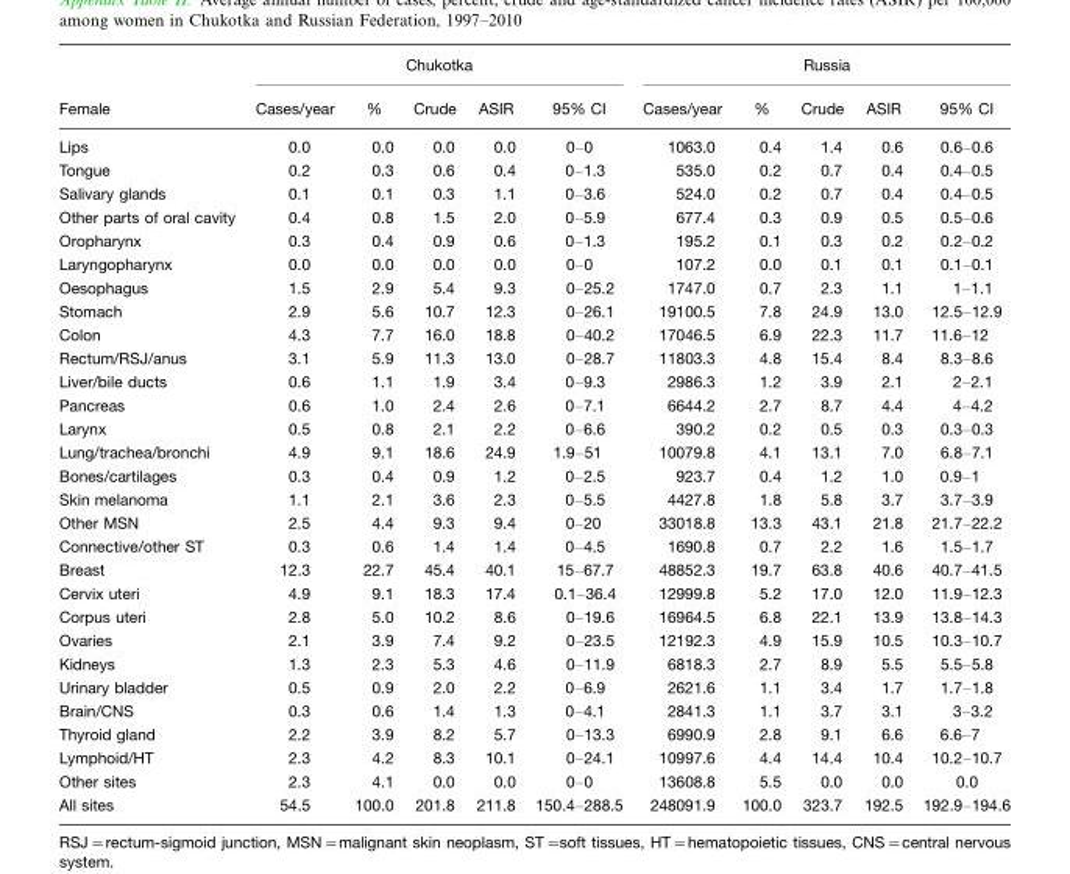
<table><thead><tr><td rowspan="2">Female</td><td colspan="5">Chukotka</td><td colspan="5">Russia</td></tr><tr><td>Cases/year</td><td>%</td><td>Crude</td><td>ASIR</td><td>95% CI</td><td>Cases/year</td><td>%</td><td>Crude</td><td>ASIR</td><td>95% CI</td></tr></thead><tbody><tr><td>Lips</td><td>0.0</td><td>0.0</td><td>0.0</td><td>0.0</td><td>0–0</td><td>1063.0</td><td>0.4</td><td>1.4</td><td>0.6</td><td>0.6–0.6</td></tr><tr><td>Tongue</td><td>0.2</td><td>0.3</td><td>0.6</td><td>0.4</td><td>0–1.3</td><td>535.0</td><td>0.2</td><td>0.7</td><td>0.4</td><td>0.4–0.5</td></tr><tr><td>Salivary glands</td><td>0.1</td><td>0.1</td><td>0.3</td><td>1.1</td><td>0–3.6</td><td>524.0</td><td>0.2</td><td>0.7</td><td>0.4</td><td>0.4–0.5</td></tr><tr><td>Other parts of oral cavity</td><td>0.4</td><td>0.8</td><td>1.5</td><td>2.0</td><td>0–5.9</td><td>677.4</td><td>0.3</td><td>0.9</td><td>0.5</td><td>0.5–0.6</td></tr><tr><td>Oropharynx</td><td>0.3</td><td>0.4</td><td>0.9</td><td>0.6</td><td>0–1.3</td><td>195.2</td><td>0.1</td><td>0.3</td><td>0.2</td><td>0.2–0.2</td></tr><tr><td>Laryngopharynx</td><td>0.0</td><td>0.0</td><td>0.0</td><td>0.0</td><td>0–0</td><td>107.2</td><td>0.0</td><td>0.1</td><td>0.1</td><td>0.1–0.1</td></tr><tr><td>Oesophagus</td><td>1.5</td><td>2.9</td><td>5.4</td><td>9.3</td><td>0–25.2</td><td>1747.0</td><td>0.7</td><td>2.3</td><td>1.1</td><td>1–1.1</td></tr><tr><td>Stomach</td><td>2.9</td><td>5.6</td><td>10.7</td><td>12.3</td><td>0–26.1</td><td>19100.5</td><td>7.8</td><td>24.9</td><td>13.0</td><td>12.5–12.9</td></tr><tr><td>Colon</td><td>4.3</td><td>7.7</td><td>16.0</td><td>18.8</td><td>0–40.2</td><td>17046.5</td><td>6.9</td><td>22.3</td><td>11.7</td><td>11.6–12</td></tr><tr><td>Rectum/RSJ/anus</td><td>3.1</td><td>5.9</td><td>11.3</td><td>13.0</td><td>0–28.7</td><td>11803.3</td><td>4.8</td><td>15.4</td><td>8.4</td><td>8.3–8.6</td></tr><tr><td>Liver/bile ducts</td><td>0.6</td><td>1.1</td><td>1.9</td><td>3.4</td><td>0–9.3</td><td>2986.3</td><td>1.2</td><td>3.9</td><td>2.1</td><td>2–2.1</td></tr><tr><td>Pancreas</td><td>0.6</td><td>1.0</td><td>2.4</td><td>2.6</td><td>0–7.1</td><td>6644.2</td><td>2.7</td><td>8.7</td><td>4.4</td><td>4–4.2</td></tr><tr><td>Larynx</td><td>0.5</td><td>0.8</td><td>2.1</td><td>2.2</td><td>0–6.6</td><td>390.2</td><td>0.2</td><td>0.5</td><td>0.3</td><td>0.3–0.3</td></tr><tr><td>Lung/trachea/bronchi</td><td>4.9</td><td>9.1</td><td>18.6</td><td>24.9</td><td>1.9–51</td><td>10079.8</td><td>4.1</td><td>13.1</td><td>7.0</td><td>6.8–7.1</td></tr><tr><td>Bones/cartilages</td><td>0.3</td><td>0.4</td><td>0.9</td><td>1.2</td><td>0–2.5</td><td>923.7</td><td>0.4</td><td>1.2</td><td>1.0</td><td>0.9–1</td></tr><tr><td>Skin melanoma</td><td>1.1</td><td>2.1</td><td>3.6</td><td>2.3</td><td>0–5.5</td><td>4427.8</td><td>1.8</td><td>5.8</td><td>3.7</td><td>3.7–3.9</td></tr><tr><td>Other MSN</td><td>2.5</td><td>4.4</td><td>9.3</td><td>9.4</td><td>0–20</td><td>33018.8</td><td>13.3</td><td>43.1</td><td>21.8</td><td>21.7–22.2</td></tr><tr><td>Connective/other ST</td><td>0.3</td><td>0.6</td><td>1.4</td><td>1.4</td><td>0–4.5</td><td>1690.8</td><td>0.7</td><td>2.2</td><td>1.6</td><td>1.5–1.7</td></tr><tr><td>Breast</td><td>12.3</td><td>22.7</td><td>45.4</td><td>40.1</td><td>15–67.7</td><td>48852.3</td><td>19.7</td><td>63.8</td><td>40.6</td><td>40.7–41.5</td></tr><tr><td>Cervix uteri</td><td>4.9</td><td>9.1</td><td>18.3</td><td>17.4</td><td>0.1–36.4</td><td>12999.8</td><td>5.2</td><td>17.0</td><td>12.0</td><td>11.9–12.3</td></tr><tr><td>Corpus uteri</td><td>2.8</td><td>5.0</td><td>10.2</td><td>8.6</td><td>0–19.6</td><td>16964.5</td><td>6.8</td><td>22.1</td><td>13.9</td><td>13.8–14.3</td></tr><tr><td>Ovaries</td><td>2.1</td><td>3.9</td><td>7.4</td><td>9.2</td><td>0–23.5</td><td>12192.3</td><td>4.9</td><td>15.9</td><td>10.5</td><td>10.3–10.7</td></tr><tr><td>Kidneys</td><td>1.3</td><td>2.3</td><td>5.3</td><td>4.6</td><td>0–11.9</td><td>6818.3</td><td>2.7</td><td>8.9</td><td>5.5</td><td>5.5–5.8</td></tr><tr><td>Urinary bladder</td><td>0.5</td><td>0.9</td><td>2.0</td><td>2.2</td><td>0–6.9</td><td>2621.6</td><td>1.1</td><td>3.4</td><td>1.7</td><td>1.7–1.8</td></tr><tr><td>Brain/CNS</td><td>0.3</td><td>0.6</td><td>1.4</td><td>1.3</td><td>0–4.1</td><td>2841.3</td><td>1.1</td><td>3.7</td><td>3.1</td><td>3–3.2</td></tr><tr><td>Thyroid gland</td><td>2.2</td><td>3.9</td><td>8.2</td><td>5.7</td><td>0–13.3</td><td>6990.9</td><td>2.8</td><td>9.1</td><td>6.6</td><td>6.6–7</td></tr><tr><td>Lymphoid/HT</td><td>2.3</td><td>4.2</td><td>8.3</td><td>10.1</td><td>0–24.1</td><td>10997.6</td><td>4.4</td><td>14.4</td><td>10.4</td><td>10.2–10.7</td></tr><tr><td>Other sites</td><td>2.3</td><td>4.1</td><td>0.0</td><td>0.0</td><td>0–0</td><td>13608.8</td><td>5.5</td><td>0.0</td><td>0.0</td><td>0.0</td></tr><tr><td>All sites</td><td>54.5</td><td>100.0</td><td>201.8</td><td>211.8</td><td>150.4–288.5</td><td>248091.9</td><td>100.0</td><td>323.7</td><td>192.5</td><td>192.9–194.6</td></tr></tbody></table>